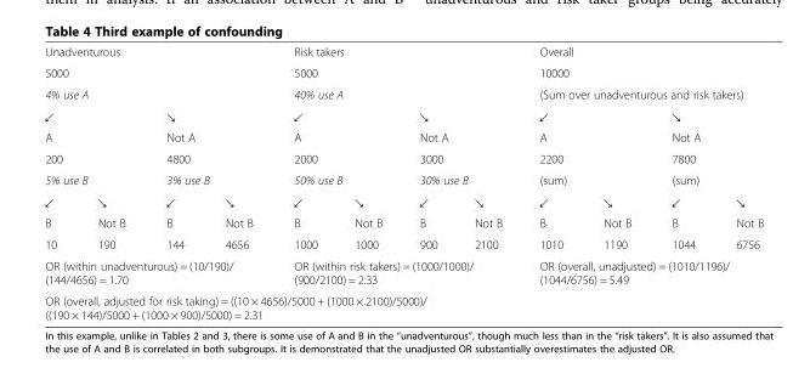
<table><tbody><tr><td colspan="4">Unadventurous</td><td colspan="4">Risk takers</td><td colspan="4">Overall</td></tr><tr><td colspan="4">5000</td><td colspan="4">5000</td><td colspan="4">10000</td></tr><tr><td colspan="4">4% use A</td><td colspan="4">40% use A</td><td colspan="4">(Sum over unadventurous and risk takers)</td></tr><tr><td colspan="2">↙</td><td colspan="2">↘</td><td colspan="2">↙</td><td colspan="2">↘</td><td colspan="2">↙</td><td colspan="2">↘</td></tr><tr><td colspan="2">A</td><td colspan="2">Not A</td><td colspan="2">A</td><td colspan="2">Not A</td><td colspan="2">A</td><td colspan="2">Not A</td></tr><tr><td colspan="2">200</td><td colspan="2">4800</td><td colspan="2">2000</td><td colspan="2">3000</td><td colspan="2">2200</td><td colspan="2">7800</td></tr><tr><td colspan="2">5% use B</td><td colspan="2">3% use B</td><td colspan="2">50% use B</td><td colspan="2">30% use B</td><td colspan="2">(sum)</td><td colspan="2">(sum)</td></tr><tr><td>↙</td><td>↘</td><td>↙</td><td>↘</td><td>↙</td><td>↘</td><td>↙</td><td>↘</td><td>↙</td><td>↘</td><td>↙</td><td>↘</td></tr><tr><td>B</td><td>Not B</td><td>B</td><td>Not B</td><td>B</td><td>Not B</td><td>B</td><td>Not B</td><td>B</td><td>Not B</td><td>B</td><td>Not B</td></tr><tr><td>10</td><td>190</td><td>144</td><td>4656</td><td>1000</td><td>1000</td><td>900</td><td>2100</td><td>1010</td><td>1190</td><td>1044</td><td>6756</td></tr><tr><td colspan="4">OR (within unadventurous) = (10/190)/ (144/4656) = 1.70</td><td colspan="4">OR (within risk takers) = (1000/1000)/ (900/2100) = 2.33</td><td colspan="4">OR (overall, unadjusted) = (1010/1196)/ (1044/6756) = 5.49</td></tr><tr><td colspan="8">OR (overall, adjusted for risk taking) = ((10 × 4656)/5000 + (1000 × 2100)/5000)/ ((190 × 144)/5000 + (1000 × 900)/5000) = 2.31</td><td colspan="4"></td></tr></tbody></table>